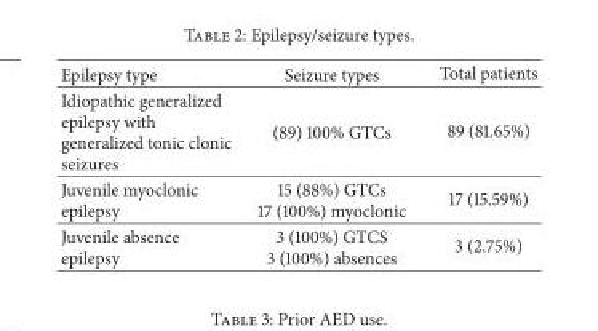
<table><thead><tr><td>Epilepsy type</td><td>Seizure types</td><td>Total patients</td></tr></thead><tbody><tr><td>Idiopathic generalized epilepsy with generalized tonic clonic seizures</td><td>(89) 100% GTCs</td><td>89 (81.65%)</td></tr><tr><td>Juvenile myoclonic epilepsy</td><td>15 (88%) GTCs 17 (100%) myoclonic</td><td>17 (15.59%)</td></tr><tr><td>Juvenile absence epilepsy</td><td>3 (100%) GTCS 3 (100%) absences</td><td>3 (2.75%)</td></tr></tbody></table>